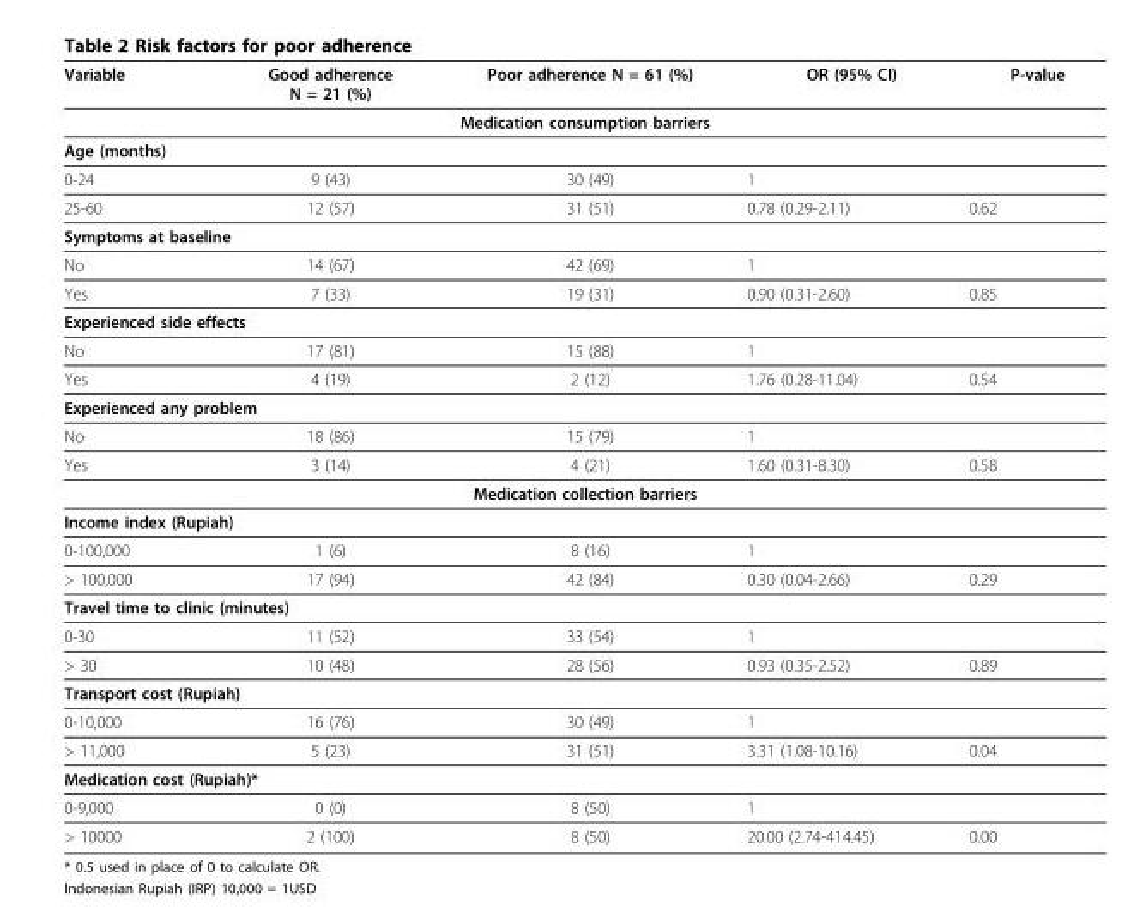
<table><thead><tr><td>Variable</td><td>Good adherence N = 21 (%)</td><td>Poor adherence N = 61 (%)</td><td>OR (95% CI)</td><td>P-value</td></tr></thead><tbody><tr><td colspan="5">Medication consumption barriers</td></tr><tr><td colspan="5">Age (months)</td></tr><tr><td>0-24</td><td>9 (43)</td><td>30 (49)</td><td>1</td><td></td></tr><tr><td>25-60</td><td>12 (57)</td><td>31 (51)</td><td>0.78 (0.29-2.11)</td><td>0.62</td></tr><tr><td colspan="5">Symptoms at baseline</td></tr><tr><td>No</td><td>14 (67)</td><td>42 (69)</td><td>1</td><td></td></tr><tr><td>Yes</td><td>7 (33)</td><td>19 (31)</td><td>0.90 (0.31-2.60)</td><td>0.85</td></tr><tr><td colspan="5">Experienced side effects</td></tr><tr><td>No</td><td>17 (81)</td><td>15 (88)</td><td>1</td><td></td></tr><tr><td>Yes</td><td>4 (19)</td><td>2 (12)</td><td>1.76 (0.28-11.04)</td><td>0.54</td></tr><tr><td colspan="5">Experienced any problem</td></tr><tr><td>No</td><td>18 (86)</td><td>15 (79)</td><td>1</td><td></td></tr><tr><td>Yes</td><td>3 (14)</td><td>4 (21)</td><td>1.60 (0.31-8.30)</td><td>0.58</td></tr><tr><td colspan="5">Medication collection barriers</td></tr><tr><td colspan="5">Income index (Rupiah)</td></tr><tr><td>0-100,000</td><td>1 (6)</td><td>8 (16)</td><td>1</td><td></td></tr><tr><td>&gt; 100,000</td><td>17 (94)</td><td>42 (84)</td><td>0.30 (0.04-2.66)</td><td>0.29</td></tr><tr><td colspan="5">Travel time to clinic (minutes)</td></tr><tr><td>0-30</td><td>11 (52)</td><td>33 (54)</td><td>1</td><td></td></tr><tr><td>&gt; 30</td><td>10 (48)</td><td>28 (56)</td><td>0.93 (0.35-2.52)</td><td>0.89</td></tr><tr><td colspan="5">Transport cost (Rupiah)</td></tr><tr><td>0-10,000</td><td>16 (76)</td><td>30 (49)</td><td>1</td><td></td></tr><tr><td>&gt; 11,000</td><td>5 (23)</td><td>31 (51)</td><td>3.31 (1.08-10.16)</td><td>0.04</td></tr><tr><td colspan="5">Medication cost (Rupiah)*</td></tr><tr><td>0-9,000</td><td>0 (0)</td><td>8 (50)</td><td>1</td><td></td></tr><tr><td>&gt; 10000</td><td>2 (100)</td><td>8 (50)</td><td>20.00 (2.74-414.45)</td><td>0.00</td></tr></tbody></table>